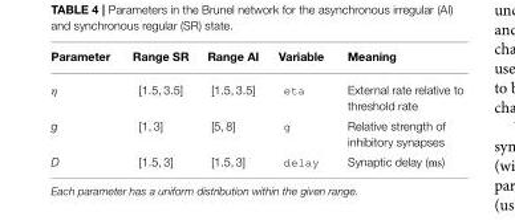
<table><thead><tr><td>Parameter</td><td>Range SR</td><td>Range AI</td><td>Variable</td><td>Meaning</td></tr></thead><tbody><tr><td>η</td><td>[1.5, 3.5]</td><td>[1.5, 3.5]</td><td>eta</td><td>External rate relative to threshold rate</td></tr><tr><td>g</td><td>[1, 3]</td><td>[5, 8]</td><td>g</td><td>Relative strength of inhibitory synapses</td></tr><tr><td>D</td><td>[1.5, 3]</td><td>[1.5, 3]</td><td>delay</td><td>Synaptic delay (ms)</td></tr></tbody></table>